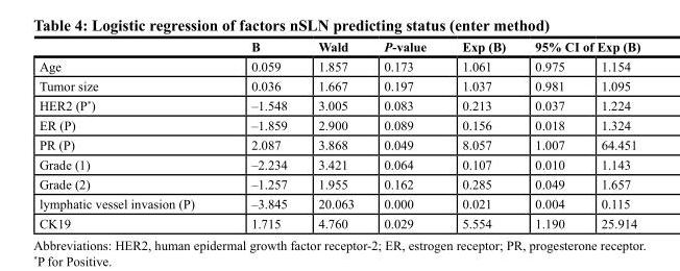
<table><thead><tr><td rowspan="2">Age</td><td rowspan="2">B 0.059</td><td rowspan="2">Wald 1.857</td><td rowspan="2">P-value 0.173</td><td rowspan="2">Exp (B) 1.061</td><td colspan="2">95% CI of Exp (B)</td></tr><tr><td>0.975</td><td>1.154</td></tr></thead><tbody><tr><td>Tumor size</td><td>0.036</td><td>1.667</td><td>0.197</td><td>1.037</td><td>0.981</td><td>1.095</td></tr><tr><td>HER2 (P*)</td><td>–1.548</td><td>3.005</td><td>0.083</td><td>0.213</td><td>0.037</td><td>1.224</td></tr><tr><td>ER (P)</td><td>–1.859</td><td>2.900</td><td>0.089</td><td>0.156</td><td>0.018</td><td>1.324</td></tr><tr><td>PR (P)</td><td>2.087</td><td>3.868</td><td>0.049</td><td>8.057</td><td>1.007</td><td>64.451</td></tr><tr><td>Grade (1)</td><td>–2.234</td><td>3.421</td><td>0.064</td><td>0.107</td><td>0.010</td><td>1.143</td></tr><tr><td>Grade (2)</td><td>–1.257</td><td>1.955</td><td>0.162</td><td>0.285</td><td>0.049</td><td>1.657</td></tr><tr><td>lymphatic vessel invasion (P)</td><td>–3.845</td><td>20.063</td><td>0.000</td><td>0.021</td><td>0.004</td><td>0.115</td></tr><tr><td>CK19</td><td>1.715</td><td>4.760</td><td>0.029</td><td>5.554</td><td>1.190</td><td>25.914</td></tr></tbody></table>